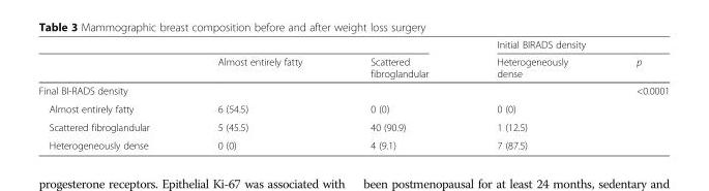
<table><thead><tr><td rowspan="2"></td><td rowspan="2">Almost entirely fatty</td><td rowspan="2">Scattered fibroglandular</td><td colspan="2">Initial BIRADS density</td></tr><tr><td>Heterogeneously dense</td><td>p</td></tr></thead><tbody><tr><td>Final BI-RADS density</td><td></td><td></td><td></td><td>&lt;0.0001</td></tr><tr><td>Almost entirely fatty</td><td>6 (54.5)</td><td>0 (0)</td><td>0 (0)</td><td></td></tr><tr><td>Scattered fibroglandular</td><td>5 (45.5)</td><td>40 (90.9)</td><td>1 (12.5)</td><td></td></tr><tr><td>Heterogeneously dense</td><td>0 (0)</td><td>4 (9.1)</td><td colspan="2">7 (87.5)</td></tr></tbody></table>